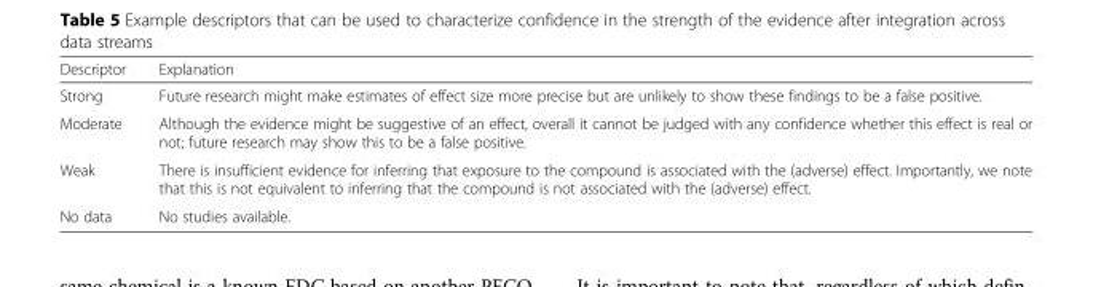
<table><thead><tr><td>Descriptor</td><td>Explanation</td></tr></thead><tbody><tr><td>Strong</td><td>Future research might make estimates of effect size more precise but are unlikely to show these findings to be a false positive.</td></tr><tr><td>Moderate</td><td>Although the evidence might be suggestive of an effect, overall it cannot be judged with any confidence whether this effect is real or not; future research may show this to be a false positive.</td></tr><tr><td>Weak</td><td>There is insufficient evidence for inferring that exposure to the compound is associated with the (adverse) effect. Importantly, we note that this is not equivalent to inferring that the compound is not associated with the (adverse) effect.</td></tr><tr><td>No data</td><td>No studies available.</td></tr></tbody></table>